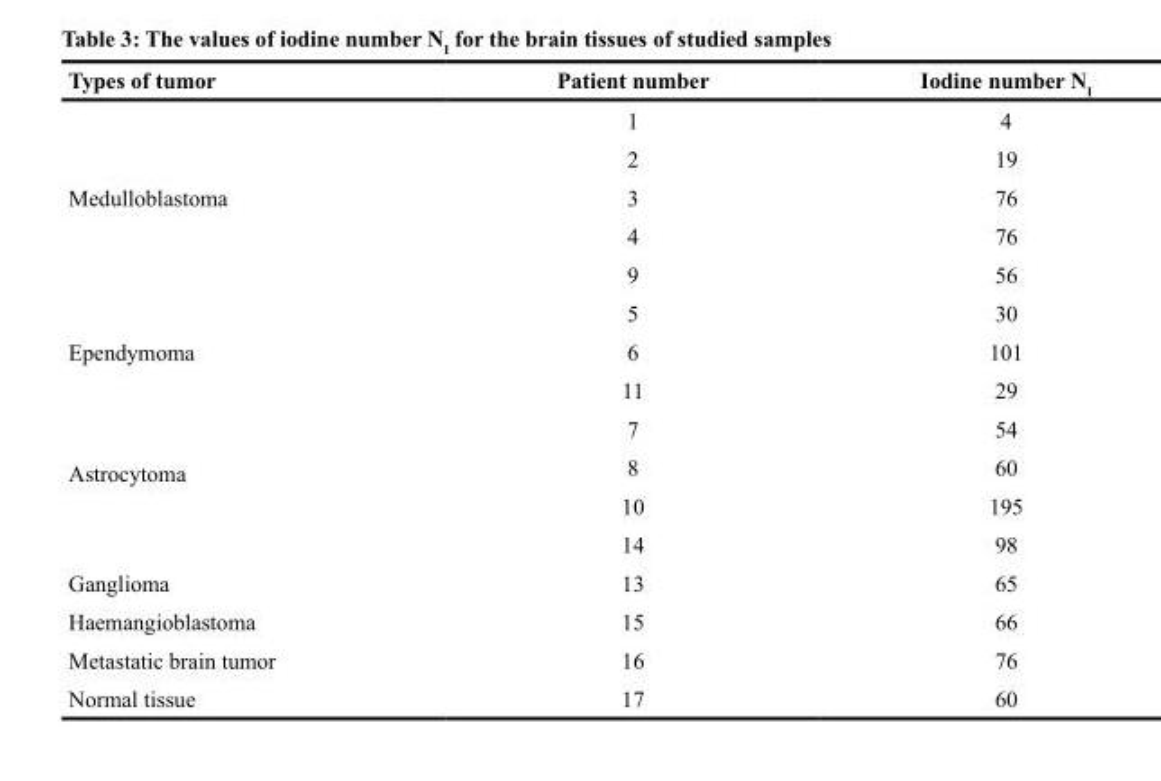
<table><thead><tr><td>Types of tumor</td><td>Patient number</td><td>Iodine number N<sub>I</sub></td></tr></thead><tbody><tr><td rowspan="5">Medulloblastoma</td><td>1</td><td>4</td></tr><tr><td>2</td><td>19</td></tr><tr><td>3</td><td>76</td></tr><tr><td>4</td><td>76</td></tr><tr><td>9</td><td>56</td></tr><tr><td rowspan="3">Ependymoma</td><td>5</td><td>30</td></tr><tr><td>6</td><td>101</td></tr><tr><td>11</td><td>29</td></tr><tr><td rowspan="4">Astrocytoma</td><td>7</td><td>54</td></tr><tr><td>8</td><td>60</td></tr><tr><td>10</td><td>195</td></tr><tr><td>14</td><td>98</td></tr><tr><td>Ganglioma</td><td>13</td><td>65</td></tr><tr><td>Haemangioblastoma</td><td>15</td><td>66</td></tr><tr><td>Metastatic brain tumor</td><td>16</td><td>76</td></tr><tr><td>Normal tissue</td><td>17</td><td>60</td></tr></tbody></table>